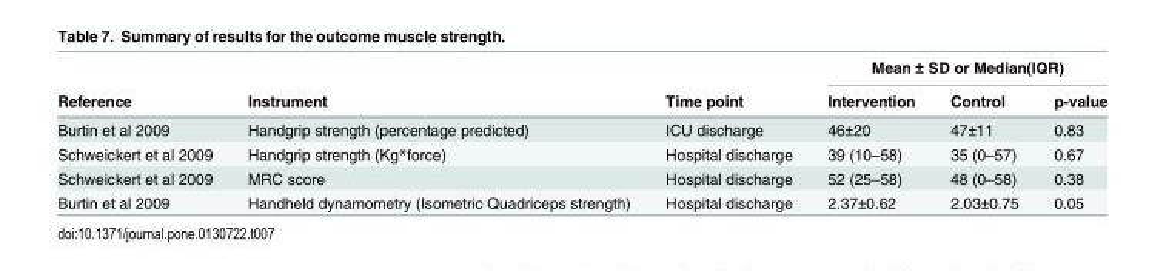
<table><thead><tr><td rowspan="2">Reference</td><td rowspan="2">Instrument</td><td rowspan="2">Time point</td><td colspan="3">Mean ± SD or Median(IQR)</td></tr><tr><td>Intervention</td><td>Control</td><td>p-value</td></tr></thead><tbody><tr><td>Burtin et al 2009</td><td>Handgrip strength (percentage predicted)</td><td>ICU discharge</td><td>46±20</td><td>47±11</td><td>0.83</td></tr><tr><td>Schweickert et al 2009</td><td>Handgrip strength (Kg*force)</td><td>Hospital discharge</td><td>39 (10–58)</td><td>35 (0–57)</td><td>0.67</td></tr><tr><td>Schweickert et al 2009</td><td>MRC score</td><td>Hospital discharge</td><td>52 (25–58)</td><td>48 (0–58)</td><td>0.38</td></tr><tr><td>Burtin et al 2009</td><td>Handheld dynamometry (Isometric Quadriceps strength)</td><td>Hospital discharge</td><td>2.37±0.62</td><td>2.03±0.75</td><td>0.05</td></tr></tbody></table>